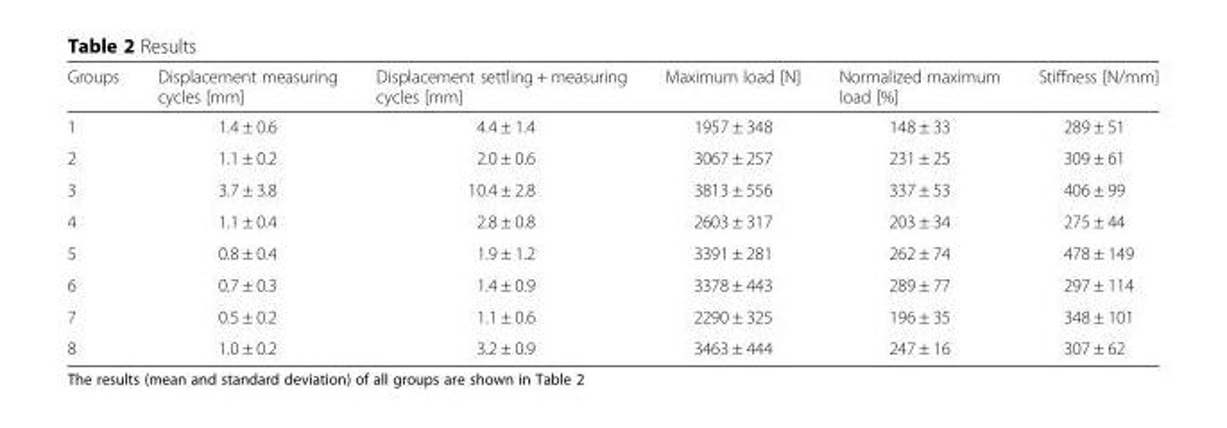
<table><thead><tr><td>Groups</td><td>Displacement measuring cycles [mm]</td><td>Displacement settling + measuring cycles [mm]</td><td>Maximum load [N]</td><td>Normalized maximum load [%]</td><td>Stiffness [N/mm]</td></tr></thead><tbody><tr><td>1</td><td>1.4 ± 0.6</td><td>4.4 ± 1.4</td><td>1957 ± 348</td><td>148 ± 33</td><td>289 ± 51</td></tr><tr><td>2</td><td>1.1 ± 0.2</td><td>2.0 ± 0.6</td><td>3067 ± 257</td><td>231 ± 25</td><td>309 ± 61</td></tr><tr><td>3</td><td>3.7 ± 3.8</td><td>10.4 ± 2.8</td><td>3813 ± 556</td><td>337 ± 53</td><td>406 ± 99</td></tr><tr><td>4</td><td>1.1 ± 0.4</td><td>2.8 ± 0.8</td><td>2603 ± 317</td><td>203 ± 34</td><td>275 ± 44</td></tr><tr><td>5</td><td>0.8 ± 0.4</td><td>1.9 ± 1.2</td><td>3391 ± 281</td><td>262 ± 74</td><td>478 ± 149</td></tr><tr><td>6</td><td>0.7 ± 0.3</td><td>1.4 ± 0.9</td><td>3378 ± 443</td><td>289 ± 77</td><td>297 ± 114</td></tr><tr><td>7</td><td>0.5 ± 0.2</td><td>1.1 ± 0.6</td><td>2290 ± 325</td><td>196 ± 35</td><td>348 ± 101</td></tr><tr><td>8</td><td>1.0 ± 0.2</td><td>3.2 ± 0.9</td><td>3463 ± 444</td><td>247 ± 16</td><td>307 ± 62</td></tr></tbody></table>